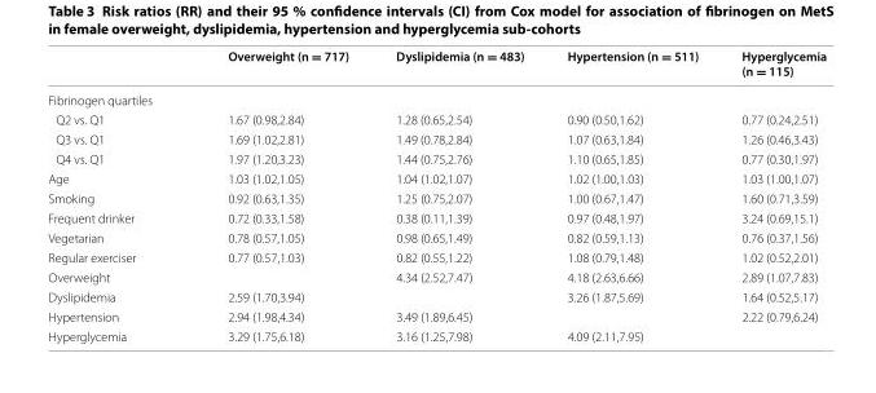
<table><thead><tr><td></td><td>Overweight (n = 717)</td><td>Dyslipidemia (n = 483)</td><td>Hypertension (n = 511)</td><td>Hyperglycemia (n = 115)</td></tr></thead><tbody><tr><td colspan="5">Fibrinogen quartiles</td></tr><tr><td>Q2 vs. Q1</td><td>1.67 (0.98,2.84)</td><td>1.28 (0.65,2.54)</td><td>0.90 (0.50,1.62)</td><td>0.77 (0.24,2.51)</td></tr><tr><td>Q3 vs. Q1</td><td>1.69 (1.02,2.81)</td><td>1.49 (0.78,2.84)</td><td>1.07 (0.63,1.84)</td><td>1.26 (0.46,3.43)</td></tr><tr><td>Q4 vs. Q1</td><td>1.97 (1.20,3.23)</td><td>1.44 (0.75,2.76)</td><td>1.10 (0.65,1.85)</td><td>0.77 (0.30,1.97)</td></tr><tr><td>Age</td><td>1.03 (1.02,1.05)</td><td>1.04 (1.02,1.07)</td><td>1.02 (1.00,1.03)</td><td>1.03 (1.00,1.07)</td></tr><tr><td>Smoking</td><td>0.92 (0.63,1.35)</td><td>1.25 (0.75,2.07)</td><td>1.00 (0.67,1.47)</td><td>1.60 (0.71,3.59)</td></tr><tr><td>Frequent drinker</td><td>0.72 (0.33,1.58)</td><td>0.38 (0.11,1.39)</td><td>0.97 (0.48,1.97)</td><td>3.24 (0.69,15.1)</td></tr><tr><td>Vegetarian</td><td>0.78 (0.57,1.05)</td><td>0.98 (0.65,1.49)</td><td>0.82 (0.59,1.13)</td><td>0.76 (0.37,1.56)</td></tr><tr><td>Regular exerciser</td><td>0.77 (0.57,1.03)</td><td>0.82 (0.55,1.22)</td><td>1.08 (0.79,1.48)</td><td>1.02 (0.52,2.01)</td></tr><tr><td>Overweight</td><td></td><td>4.34 (2.52,7.47)</td><td>4.18 (2.63,6.66)</td><td>2.89 (1.07,7.83)</td></tr><tr><td>Dyslipidemia</td><td>2.59 (1.70,3.94)</td><td></td><td>3.26 (1.87,5.69)</td><td>1.64 (0.52,5.17)</td></tr><tr><td>Hypertension</td><td>2.94 (1.98,4.34)</td><td>3.49 (1.89,6.45)</td><td></td><td>2.22 (0.79,6.24)</td></tr><tr><td>Hyperglycemia</td><td>3.29 (1.75,6.18)</td><td>3.16 (1.25,7.98)</td><td>4.09 (2.11,7.95)</td><td></td></tr></tbody></table>